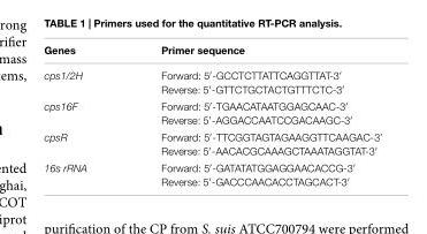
<table><thead><tr><td>Genes</td><td>Primer sequence</td></tr></thead><tbody><tr><td>cps1/2H</td><td>Forward: 5′-GCCTCTTATTCAGGTTAT-3′ Reverse: 5′-GTTCTGCTACTGTTTCTC-3′</td></tr><tr><td>cps16F</td><td>Forward: 5′-TGAACATAATGGAGCAAC-3′ Reverse: 5′-AGGACCAATCCGACAAGC-3′</td></tr><tr><td>cpsR</td><td>Forward: 5′-TTCGGTAGTAGAAGGTTCAAGAC-3’ Reverse: 5′-AACACGCAAAGCTAAATAGGTAT-3′</td></tr><tr><td>16s rRNA</td><td>Forward: 5′-GATATATGGAGGAACACCG-3′ Reverse: 5′-GACCCAACACCTAGCACT-3′</td></tr></tbody></table>